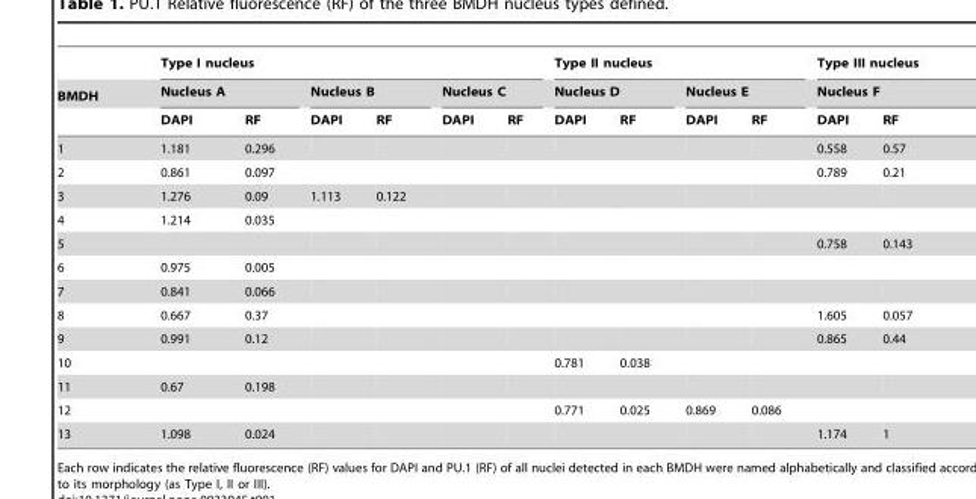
<table><thead><tr><td rowspan="3">BMDH</td><td colspan="6">Type I nucleus</td><td colspan="4">Type II nucleus</td><td rowspan="2" colspan="2">Type III nucleus Nucleus F</td></tr><tr><td colspan="2">Nucleus A</td><td colspan="2">Nucleus B</td><td colspan="2">Nucleus C</td><td colspan="2">Nucleus D</td><td colspan="2">Nucleus E</td></tr><tr><td>DAPI</td><td>RF</td><td>DAPI</td><td>RF</td><td>DAPI</td><td>RF</td><td>DAPI</td><td>RF</td><td>DAPI</td><td>RF</td><td>DAPI</td><td>RF</td></tr></thead><tbody><tr><td>1</td><td>1.181</td><td>0.296</td><td></td><td></td><td></td><td></td><td></td><td></td><td></td><td></td><td>0.558</td><td>0.57</td></tr><tr><td>2</td><td>0.861</td><td>0.097</td><td></td><td></td><td></td><td></td><td></td><td></td><td></td><td></td><td>0.789</td><td>0.21</td></tr><tr><td>3</td><td>1.276</td><td>0.09</td><td>1.113</td><td>0.122</td><td></td><td></td><td></td><td></td><td></td><td></td><td></td><td></td></tr><tr><td>4</td><td>1.214</td><td>0.035</td><td></td><td></td><td></td><td></td><td></td><td></td><td></td><td></td><td></td><td></td></tr><tr><td>5</td><td></td><td></td><td></td><td></td><td></td><td></td><td></td><td></td><td></td><td></td><td>0.758</td><td>0.143</td></tr><tr><td>6</td><td>0.975</td><td>0.005</td><td></td><td></td><td></td><td></td><td></td><td></td><td></td><td></td><td></td><td></td></tr><tr><td>7</td><td>0.841</td><td>0.066</td><td></td><td></td><td></td><td></td><td></td><td></td><td></td><td></td><td></td><td></td></tr><tr><td>8</td><td>0.667</td><td>0.37</td><td></td><td></td><td></td><td></td><td></td><td></td><td></td><td></td><td>1.605</td><td>0.057</td></tr><tr><td>9</td><td>0.991</td><td>0.12</td><td></td><td></td><td></td><td></td><td></td><td></td><td></td><td></td><td>0.865</td><td>0.44</td></tr><tr><td>10</td><td></td><td></td><td></td><td></td><td></td><td></td><td>0.781</td><td>0.038</td><td></td><td></td><td></td><td></td></tr><tr><td>11</td><td>0.67</td><td>0.198</td><td></td><td></td><td></td><td></td><td></td><td></td><td></td><td></td><td></td><td></td></tr><tr><td>12</td><td></td><td></td><td></td><td></td><td></td><td></td><td>0.771</td><td>0.025</td><td>0.869</td><td>0.086</td><td></td><td></td></tr><tr><td>13</td><td>1.098</td><td>0.024</td><td></td><td></td><td></td><td></td><td></td><td></td><td></td><td></td><td>1.174</td><td>1</td></tr></tbody></table>